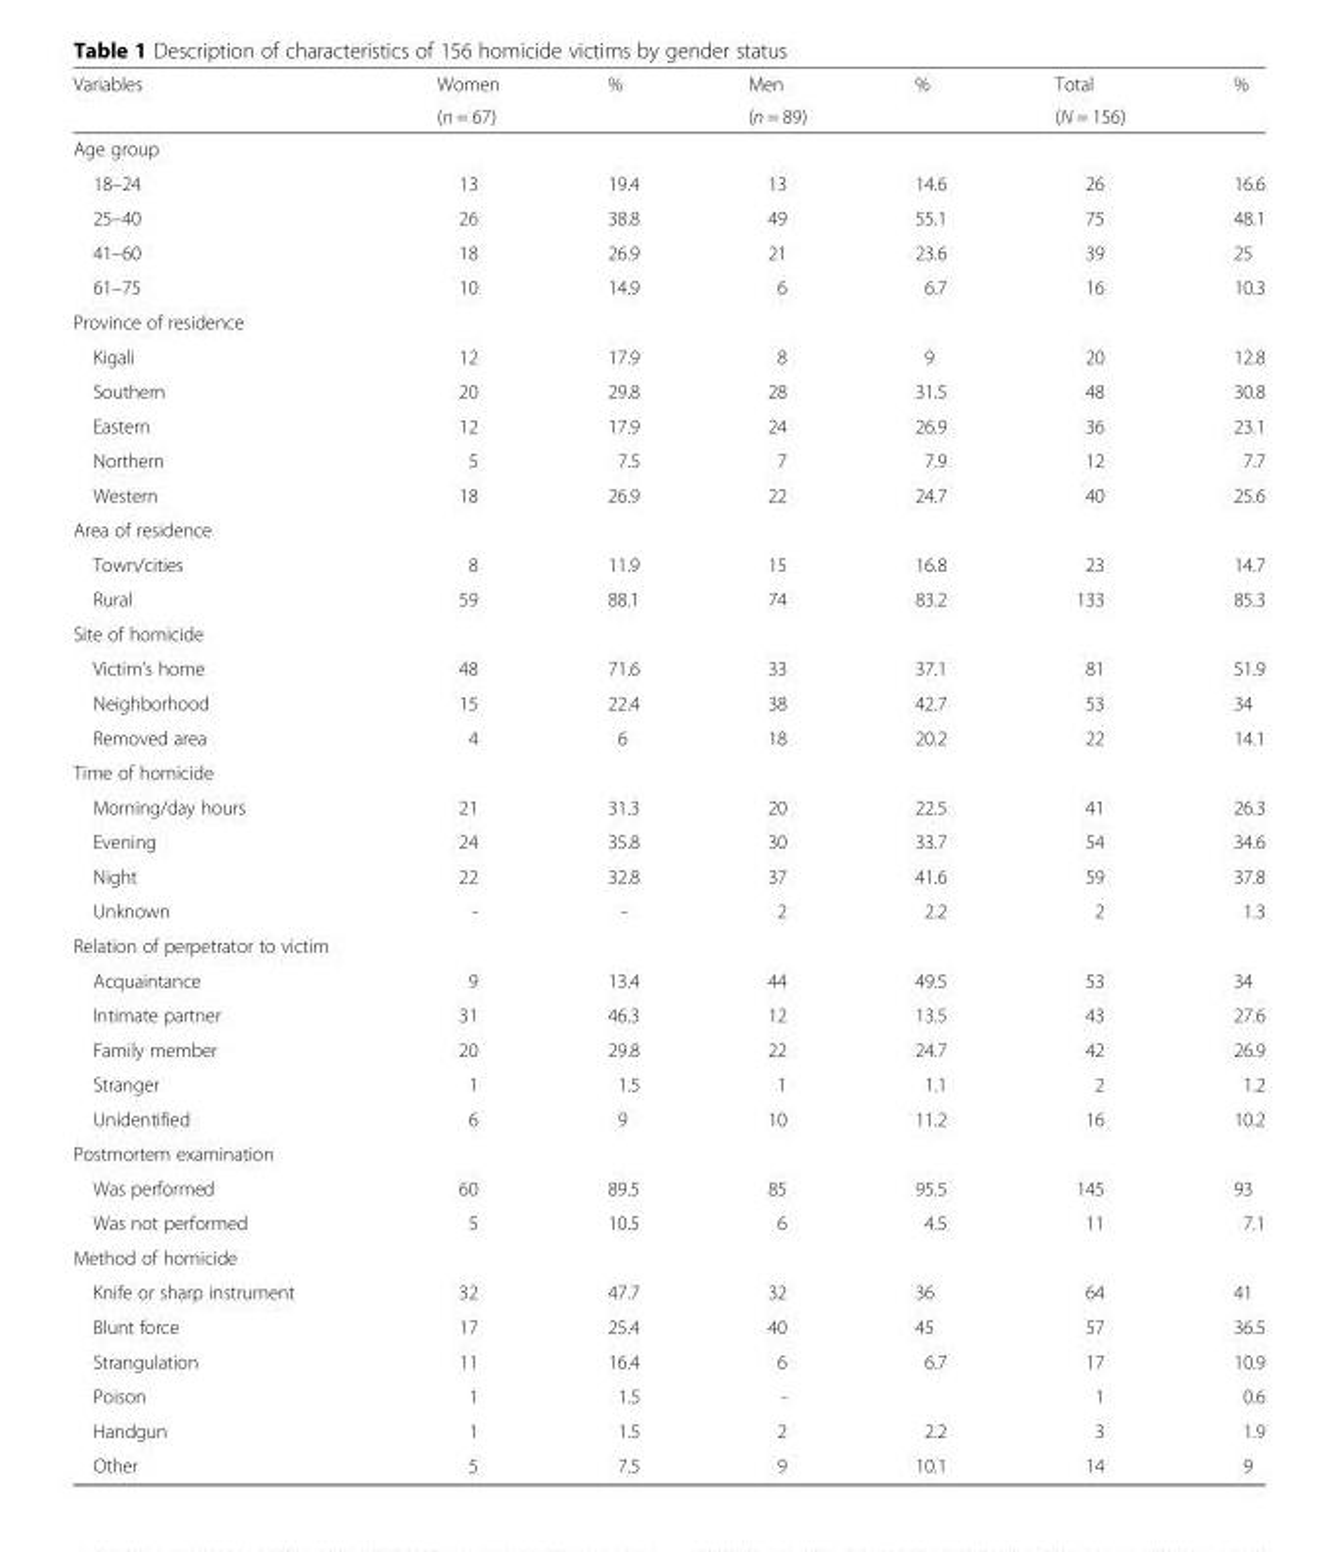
<table><thead><tr><td rowspan="2">Variables</td><td rowspan="2">Women (n = 67)</td><td rowspan="2">%</td><td rowspan="2">Men (n = 89)</td><td rowspan="2">%</td><td rowspan="2">Total (N = 156)</td><td rowspan="2">%</td></tr><tr></tr></thead><tbody><tr><td colspan="7">Age group</td></tr><tr><td>18–24</td><td>13</td><td>19.4</td><td>13</td><td>14.6</td><td>26</td><td>16.6</td></tr><tr><td>25–40</td><td>26</td><td>38.8</td><td>49</td><td>55.1</td><td>75</td><td>48.1</td></tr><tr><td>41–60</td><td>18</td><td>26.9</td><td>21</td><td>23.6</td><td>39</td><td>25</td></tr><tr><td>61–75</td><td>10</td><td>14.9</td><td>6</td><td>6.7</td><td>16</td><td>10.3</td></tr><tr><td colspan="7">Province of residence</td></tr><tr><td>Kigali</td><td>12</td><td>17.9</td><td>8</td><td>9</td><td>20</td><td>12.8</td></tr><tr><td>Southern</td><td>20</td><td>29.8</td><td>28</td><td>31.5</td><td>48</td><td>30.8</td></tr><tr><td>Eastern</td><td>12</td><td>17.9</td><td>24</td><td>26.9</td><td>36</td><td>23.1</td></tr><tr><td>Northern</td><td>5</td><td>7.5</td><td>7</td><td>7.9</td><td>12</td><td>7.7</td></tr><tr><td>Western</td><td>18</td><td>26.9</td><td>22</td><td>24.7</td><td>40</td><td>25.6</td></tr><tr><td colspan="7">Area of residence</td></tr><tr><td>Town/cities</td><td>8</td><td>11.9</td><td>15</td><td>16.8</td><td>23</td><td>14.7</td></tr><tr><td>Rural</td><td>59</td><td>88.1</td><td>74</td><td>83.2</td><td>133</td><td>85.3</td></tr><tr><td colspan="7">Site of homicide</td></tr><tr><td>Victim’s home</td><td>48</td><td>71.6</td><td>33</td><td>37.1</td><td>81</td><td>51.9</td></tr><tr><td>Neighborhood</td><td>15</td><td>22.4</td><td>38</td><td>42.7</td><td>53</td><td>34</td></tr><tr><td>Removed area</td><td>4</td><td>6</td><td>18</td><td>20.2</td><td>22</td><td>14.1</td></tr><tr><td colspan="7">Time of homicide</td></tr><tr><td>Morning/day hours</td><td>21</td><td>31.3</td><td>20</td><td>22.5</td><td>41</td><td>26.3</td></tr><tr><td>Evening</td><td>24</td><td>35.8</td><td>30</td><td>33.7</td><td>54</td><td>34.6</td></tr><tr><td>Night</td><td>22</td><td>32.8</td><td>37</td><td>41.6</td><td>59</td><td>37.8</td></tr><tr><td>Unknown</td><td>-</td><td>-</td><td>2</td><td>2.2</td><td>2</td><td>1.3</td></tr><tr><td colspan="7">Relation of perpetrator to victim</td></tr><tr><td>Acquaintance</td><td>9</td><td>13.4</td><td>44</td><td>49.5</td><td>53</td><td>34</td></tr><tr><td>Intimate partner</td><td>31</td><td>46.3</td><td>12</td><td>13.5</td><td>43</td><td>27.6</td></tr><tr><td>Family member</td><td>20</td><td>29.8</td><td>22</td><td>24.7</td><td>42</td><td>26.9</td></tr><tr><td>Stranger</td><td>1</td><td>1.5</td><td>1</td><td>1.1</td><td>2</td><td>1.2</td></tr><tr><td>Unidentified</td><td>6</td><td>9</td><td>10</td><td>11.2</td><td>16</td><td>10.2</td></tr><tr><td colspan="7">Postmortem examination</td></tr><tr><td>Was performed</td><td>60</td><td>89.5</td><td>85</td><td>95.5</td><td>145</td><td>93</td></tr><tr><td>Was not performed</td><td>5</td><td>10.5</td><td>6</td><td>4.5</td><td>11</td><td>7.1</td></tr><tr><td colspan="7">Method of homicide</td></tr><tr><td>Knife or sharp instrument</td><td>32</td><td>47.7</td><td>32</td><td>36</td><td>64</td><td>41</td></tr><tr><td>Blunt force</td><td>17</td><td>25.4</td><td>40</td><td>45</td><td>57</td><td>36.5</td></tr><tr><td>Strangulation</td><td>11</td><td>16.4</td><td>6</td><td>6.7</td><td>17</td><td>10.9</td></tr><tr><td>Poison</td><td>1</td><td>1.5</td><td>-</td><td></td><td>1</td><td>0.6</td></tr><tr><td>Handgun</td><td>1</td><td>1.5</td><td>2</td><td>2.2</td><td>3</td><td>1.9</td></tr><tr><td>Other</td><td>5</td><td>7.5</td><td>9</td><td>10.1</td><td>14</td><td>9</td></tr></tbody></table>